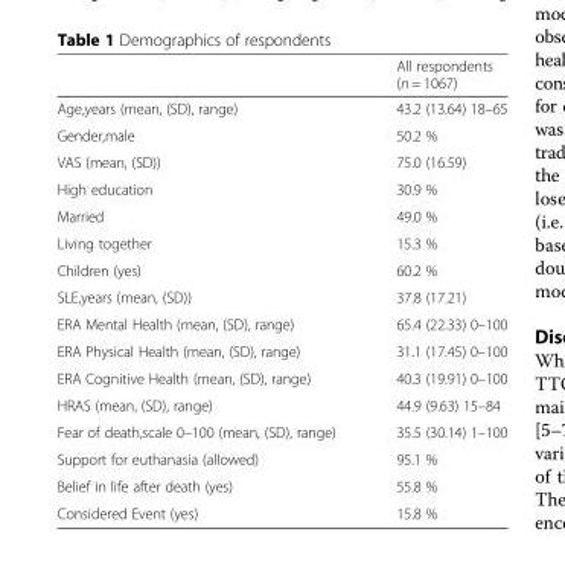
<table><thead><tr><td></td><td>All respondents (n = 1067)</td></tr></thead><tbody><tr><td>Age,years (mean, (SD), range)</td><td>43.2 (13.64) 18–65</td></tr><tr><td>Gender,male</td><td>50.2 %</td></tr><tr><td>VAS (mean, (SD))</td><td>75.0 (16.59)</td></tr><tr><td>High education</td><td>30.9 %</td></tr><tr><td>Married</td><td>49.0 %</td></tr><tr><td>Living together</td><td>15.3 %</td></tr><tr><td>Children (yes)</td><td>60.2 %</td></tr><tr><td>SLE,years (mean, (SD))</td><td>37.8 (17.21)</td></tr><tr><td>ERA Mental Health (mean, (SD), range)</td><td>65.4 (22.33) 0–100</td></tr><tr><td>ERA Physical Health (mean, (SD), range)</td><td>31.1 (17.45) 0–100</td></tr><tr><td>ERA Cognitive Health (mean, (SD), range)</td><td>40.3 (19.91) 0–100</td></tr><tr><td>HRAS (mean, (SD), range)</td><td>44.9 (9.63) 15–84</td></tr><tr><td>Fear of death,scale 0–100 (mean, (SD), range)</td><td>35.5 (30.14) 1–100</td></tr><tr><td>Support for euthanasia (allowed)</td><td>95.1 %</td></tr><tr><td>Belief in life after death (yes)</td><td>55.8 %</td></tr><tr><td>Considered Event (yes)</td><td>15.8 %</td></tr></tbody></table>